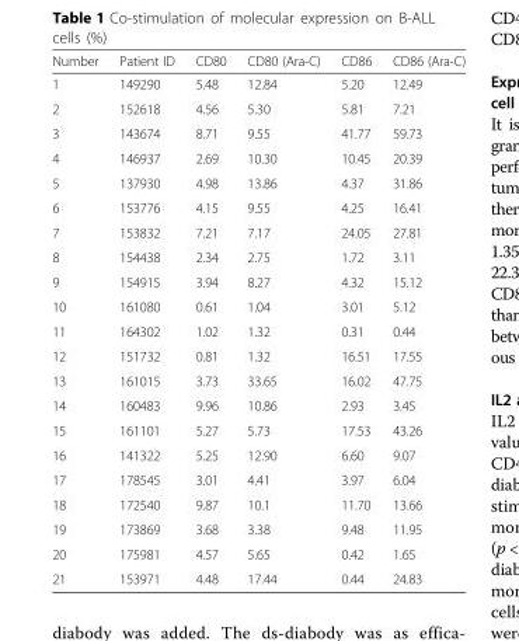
<table><thead><tr><td>Number</td><td>Patient ID</td><td>CD80</td><td>CD80 (Ara-C)</td><td>CD86</td><td>CD86 (Ara-C)</td></tr></thead><tbody><tr><td>1</td><td>149290</td><td>5.48</td><td>12.84</td><td>5.20</td><td>12.49</td></tr><tr><td>2</td><td>152618</td><td>4.56</td><td>5.30</td><td>5.81</td><td>7.21</td></tr><tr><td>3</td><td>143674</td><td>8.71</td><td>9.55</td><td>41.77</td><td>59.73</td></tr><tr><td>4</td><td>146937</td><td>2.69</td><td>10.30</td><td>10.45</td><td>20.39</td></tr><tr><td>5</td><td>137930</td><td>4.98</td><td>13.86</td><td>4.37</td><td>31.86</td></tr><tr><td>6</td><td>153776</td><td>4.15</td><td>9.55</td><td>4.25</td><td>16.41</td></tr><tr><td>7</td><td>153832</td><td>7.21</td><td>7.17</td><td>24.05</td><td>27.81</td></tr><tr><td>8</td><td>154438</td><td>2.34</td><td>2.75</td><td>1.72</td><td>3.11</td></tr><tr><td>9</td><td>154915</td><td>3.94</td><td>8.27</td><td>4.32</td><td>15.12</td></tr><tr><td>10</td><td>161080</td><td>0.61</td><td>1.04</td><td>3.01</td><td>5.12</td></tr><tr><td>11</td><td>164302</td><td>1.02</td><td>1.32</td><td>0.31</td><td>0.44</td></tr><tr><td>12</td><td>151732</td><td>0.81</td><td>1.32</td><td>16.51</td><td>17.55</td></tr><tr><td>13</td><td>161015</td><td>3.73</td><td>33.65</td><td>16.02</td><td>47.75</td></tr><tr><td>14</td><td>160483</td><td>9.96</td><td>10.86</td><td>2.93</td><td>3.45</td></tr><tr><td>15</td><td>161101</td><td>5.27</td><td>5.73</td><td>17.53</td><td>43.26</td></tr><tr><td>16</td><td>141322</td><td>5.25</td><td>12.90</td><td>6.60</td><td>9.07</td></tr><tr><td>17</td><td>178545</td><td>3.01</td><td>4.41</td><td>3.97</td><td>6.04</td></tr><tr><td>18</td><td>172540</td><td>9.87</td><td>10.1</td><td>11.70</td><td>13.66</td></tr><tr><td>19</td><td>173869</td><td>3.68</td><td>3.38</td><td>9.48</td><td>11.95</td></tr><tr><td>20</td><td>175981</td><td>4.57</td><td>5.65</td><td>0.42</td><td>1.65</td></tr><tr><td>21</td><td>153971</td><td>4.48</td><td>17.44</td><td>0.44</td><td>24.83</td></tr></tbody></table>